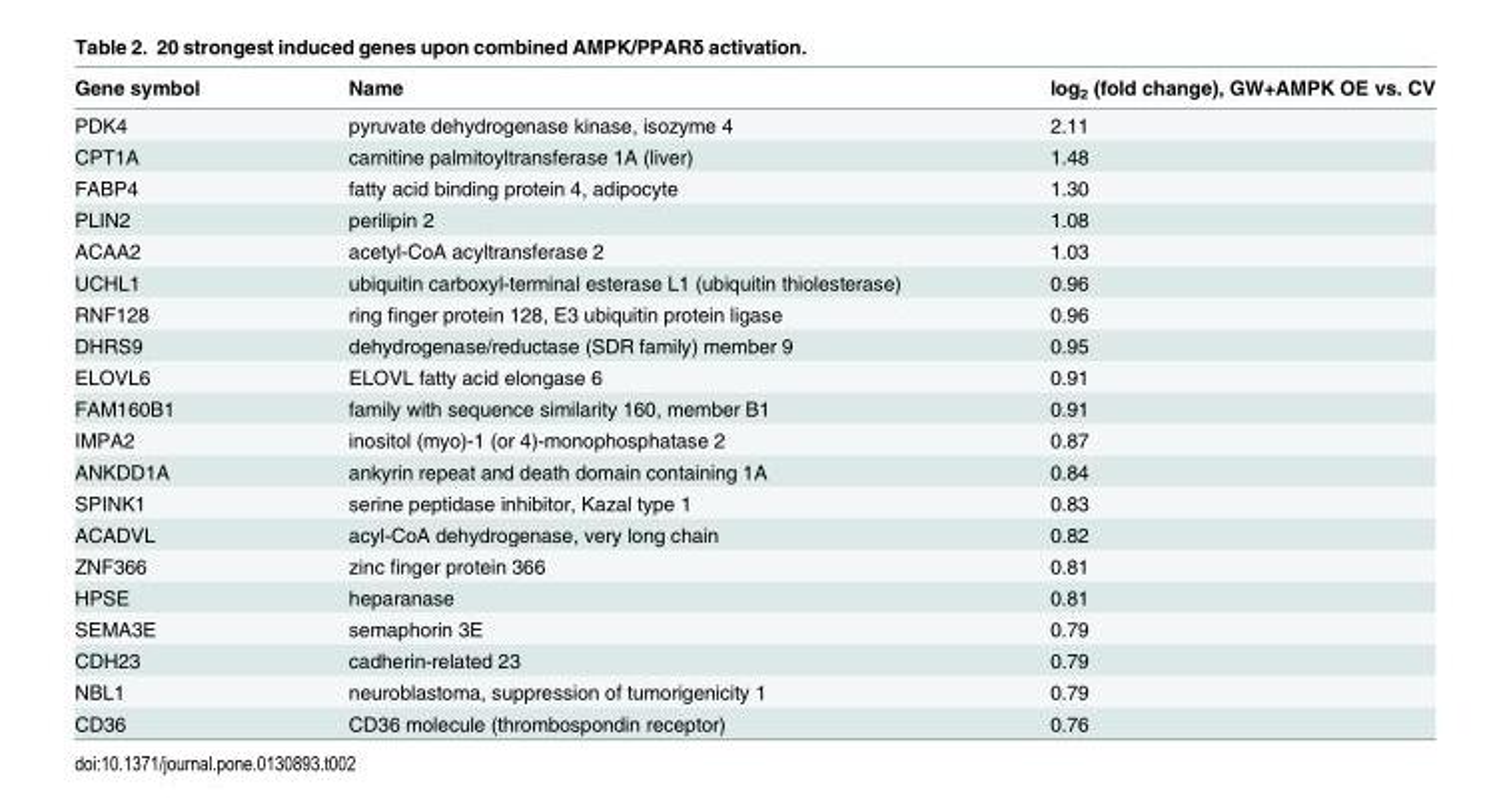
<table><thead><tr><td>Gene symbol</td><td>Name</td><td>log<sub>2</sub> (fold change), GW+AMPK OE vs. CV</td></tr></thead><tbody><tr><td>PDK4</td><td>pyruvate dehydrogenase kinase, isozyme 4</td><td>2.11</td></tr><tr><td>CPT1A</td><td>carnitine palmitoyltransferase 1A (liver)</td><td>1.48</td></tr><tr><td>FABP4</td><td>fatty acid binding protein 4, adipocyte</td><td>1.30</td></tr><tr><td>PLIN2</td><td>perilipin 2</td><td>1.08</td></tr><tr><td>ACAA2</td><td>acetyl-CoA acyltransferase 2</td><td>1.03</td></tr><tr><td>UCHL1</td><td>ubiquitin carboxyl-terminal esterase L1 (ubiquitin thiolesterase)</td><td>0.96</td></tr><tr><td>RNF128</td><td>ring finger protein 128, E3 ubiquitin protein ligase</td><td>0.96</td></tr><tr><td>DHRS9</td><td>dehydrogenase/reductase (SDR family) member 9</td><td>0.95</td></tr><tr><td>ELOVL6</td><td>ELOVL fatty acid elongase 6</td><td>0.91</td></tr><tr><td>FAM160B1</td><td>family with sequence similarity 160, member B1</td><td>0.91</td></tr><tr><td>IMPA2</td><td>inositol (myo)-1 (or 4)-monophosphatase 2</td><td>0.87</td></tr><tr><td>ANKDD1A</td><td>ankyrin repeat and death domain containing 1A</td><td>0.84</td></tr><tr><td>SPINK1</td><td>serine peptidase inhibitor, Kazal type 1</td><td>0.83</td></tr><tr><td>ACADVL</td><td>acyl-CoA dehydrogenase, very long chain</td><td>0.82</td></tr><tr><td>ZNF366</td><td>zinc finger protein 366</td><td>0.81</td></tr><tr><td>HPSE</td><td>heparanase</td><td>0.81</td></tr><tr><td>SEMA3E</td><td>semaphorin 3E</td><td>0.79</td></tr><tr><td>CDH23</td><td>cadherin-related 23</td><td>0.79</td></tr><tr><td>NBL1</td><td>neuroblastoma, suppression of tumorigenicity 1</td><td>0.79</td></tr><tr><td>CD36</td><td>CD36 molecule (thrombospondin receptor)</td><td>0.76</td></tr></tbody></table>